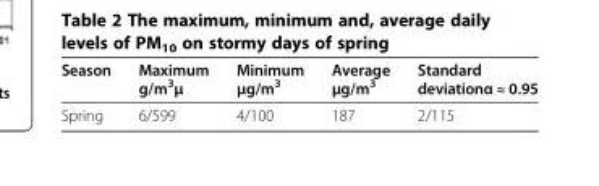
<table><thead><tr><td>Season</td><td>Maximum g/m<sup>3</sup>μ</td><td>Minimum μg/m<sup>3</sup></td><td>Average μg/m<sup>3</sup></td><td>Standard deviationα ≈ 0.95</td></tr></thead><tbody><tr><td>Spring</td><td>6/599</td><td>4/100</td><td>187</td><td>2/115</td></tr></tbody></table>